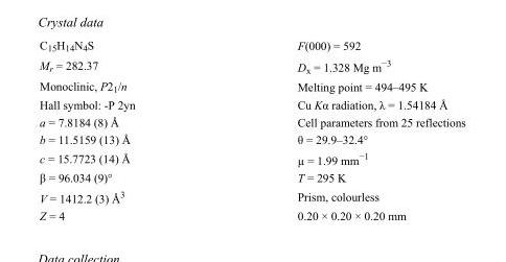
<table><tbody><tr><td>C<sub>15</sub>H<sub>14</sub>N<sub>4</sub>S</td><td>F(000) = 592</td></tr><tr><td>M<sub>r</sub> = 282.37</td><td>D<sub>x</sub> = 1.328 Mg m<sup>−3</sup></td></tr><tr><td>Monoclinic, P2<sub>1</sub>/n</td><td>Melting point = 494–495 K</td></tr><tr><td>Hall symbol: -P 2yn</td><td>Cu Kα radiation, λ = 1.54184 Å</td></tr><tr><td>a = 7.8184 (8) Å</td><td>Cell parameters from 25 reflections</td></tr><tr><td>b = 11.5159 (13) Å</td><td>θ = 29.9–32.4°</td></tr><tr><td>c = 15.7723 (14) Å</td><td>µ = 1.99 mm<sup>−1</sup></td></tr><tr><td>β = 96.034 (9)°</td><td>T = 295 K</td></tr><tr><td>V = 1412.2 (3) Å<sup>3</sup></td><td>Prism, colourless</td></tr><tr><td>Z = 4</td><td>0.20 × 0.20 × 0.20 mm</td></tr></tbody></table>